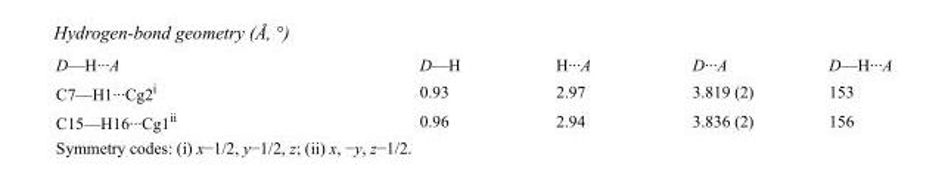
<table><tbody><tr><td>D—H···A</td><td>D—H</td><td>H···A</td><td>D···A</td><td>D—H···A</td></tr><tr><td>C7—H1···Cg2<sup>i</sup></td><td>0.93</td><td>2.97</td><td>3.819 (2)</td><td>153</td></tr><tr><td>C15—H16···Cg1<sup>ii</sup></td><td>0.96</td><td>2.94</td><td>3.836 (2)</td><td>156</td></tr></tbody></table>